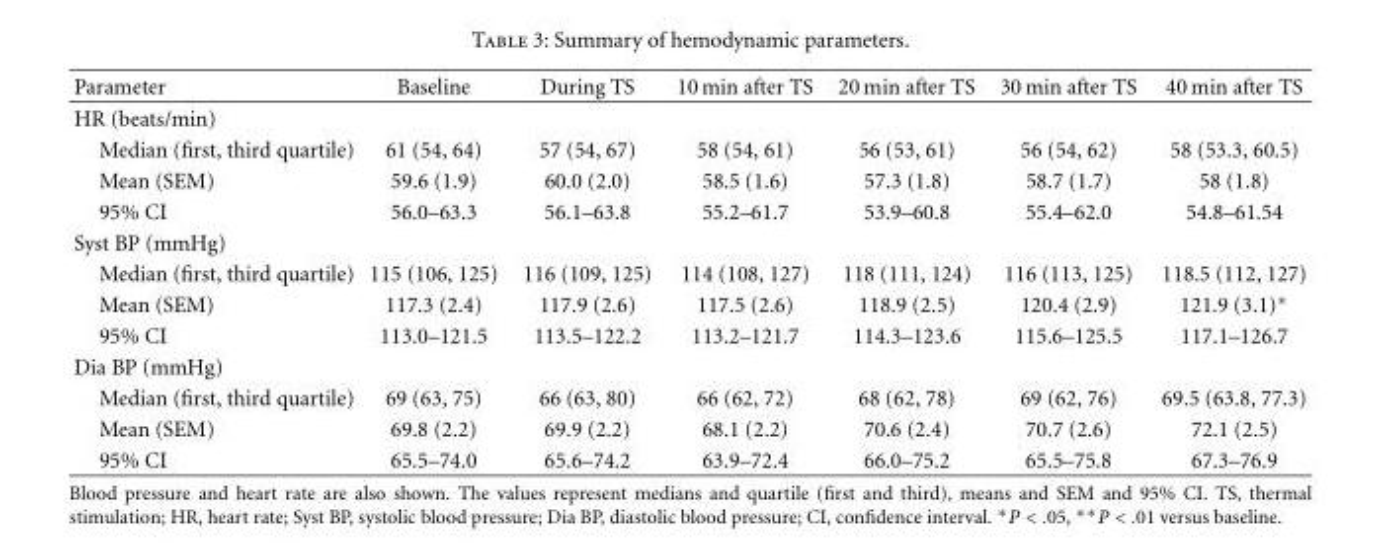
<table><thead><tr><td>Parameter</td><td>Baseline</td><td>During TS</td><td>10 min after TS</td><td>20 min after TS</td><td>30 min after TS</td><td>40 min after TS</td></tr></thead><tbody><tr><td colspan="7">HR (beats/min)</td></tr><tr><td>Median (first, third quartile)</td><td>61 (54, 64)</td><td>57 (54, 67)</td><td>58 (54, 61)</td><td>56 (53, 61)</td><td>56 (54, 62)</td><td>58 (53.3, 60.5)</td></tr><tr><td>Mean (SEM)</td><td>59.6 (1.9)</td><td>60.0 (2.0)</td><td>58.5 (1.6)</td><td>57.3 (1.8)</td><td>58.7 (1.7)</td><td>58 (1.8)</td></tr><tr><td>95% CI</td><td>56.0–63.3</td><td>56.1–63.8</td><td>55.2–61.7</td><td>53.9–60.8</td><td>55.4–62.0</td><td>54.8–61.54</td></tr><tr><td colspan="7">Syst BP (mmHg)</td></tr><tr><td>Median (first, third quartile)</td><td>115 (106, 125)</td><td>116 (109, 125)</td><td>114 (108, 127)</td><td>118 (111, 124)</td><td>116 (113, 125)</td><td>118.5 (112, 127)</td></tr><tr><td>Mean (SEM)</td><td>117.3 (2.4)</td><td>117.9 (2.6)</td><td>117.5 (2.6)</td><td>118.9 (2.5)</td><td>120.4 (2.9)</td><td>121.9 (3.1)∗</td></tr><tr><td>95% CI</td><td>113.0–121.5</td><td>113.5–122.2</td><td>113.2–121.7</td><td>114.3–123.6</td><td>115.6–125.5</td><td>117.1–126.7</td></tr><tr><td colspan="7">Dia BP (mmHg)</td></tr><tr><td>Median (first, third quartile)</td><td>69 (63, 75)</td><td>66 (63, 80)</td><td>66 (62, 72)</td><td>68 (62, 78)</td><td>69 (62, 76)</td><td>69.5 (63.8, 77.3)</td></tr><tr><td>Mean (SEM)</td><td>69.8 (2.2)</td><td>69.9 (2.2)</td><td>68.1 (2.2)</td><td>70.6 (2.4)</td><td>70.7 (2.6)</td><td>72.1 (2.5)</td></tr><tr><td>95% CI</td><td>65.5–74.0</td><td>65.6–74.2</td><td>63.9–72.4</td><td>66.0–75.2</td><td>65.5–75.8</td><td>67.3–76.9</td></tr></tbody></table>